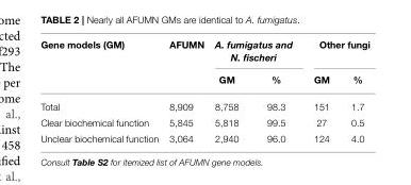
<table><thead><tr><td rowspan="2">Gene models (GM)</td><td rowspan="2">AFUMN</td><td colspan="2">A. fumigatus and N. fischeri</td><td colspan="2">Other fungi</td></tr><tr><td>GM</td><td>%</td><td>GM</td><td>%</td></tr></thead><tbody><tr><td>Total</td><td>8,909</td><td>8,758</td><td>98.3</td><td>151</td><td>1.7</td></tr><tr><td>Clear biochemical function</td><td>5,845</td><td>5,818</td><td>99.5</td><td>27</td><td>0.5</td></tr><tr><td>Unclear biochemical function</td><td>3,064</td><td>2,940</td><td>96.0</td><td>124</td><td>4.0</td></tr></tbody></table>